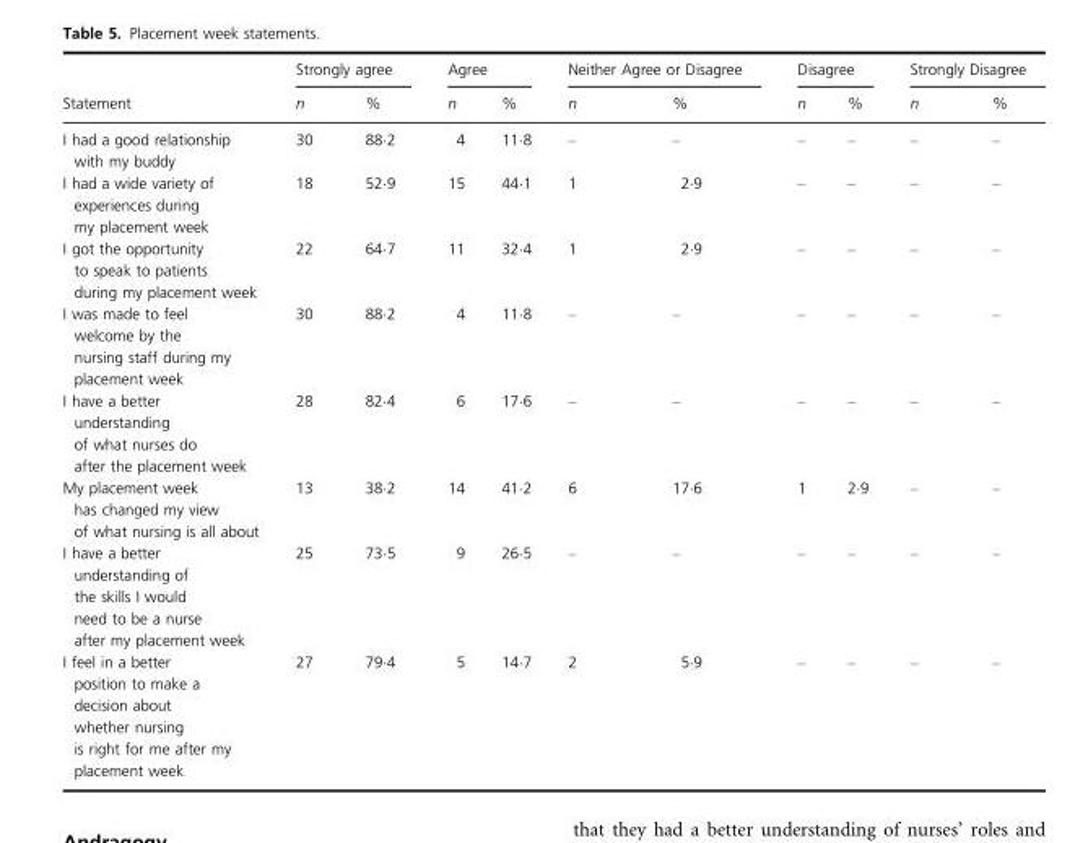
<table><thead><tr><td rowspan="2">Statement</td><td colspan="2">Strongly agree</td><td colspan="2">Agree</td><td colspan="2">Neither Agree or Disagree</td><td colspan="2">Disagree</td><td colspan="2">Strongly Disagree</td></tr><tr><td>n</td><td>%</td><td>n</td><td>%</td><td>n</td><td>%</td><td>n</td><td>%</td><td>n</td><td>%</td></tr></thead><tbody><tr><td>I had a good relationship with my buddy</td><td>30</td><td>88·2</td><td>4</td><td>11·8</td><td>–</td><td>–</td><td>–</td><td>–</td><td>–</td><td>–</td></tr><tr><td>I had a wide variety of experiences during my placement week</td><td>18</td><td>52·9</td><td>15</td><td>44·1</td><td>1</td><td>2·9</td><td>–</td><td>–</td><td>–</td><td>–</td></tr><tr><td>I got the opportunity to speak to patients during my placement week</td><td>22</td><td>64·7</td><td>11</td><td>32·4</td><td>1</td><td>2·9</td><td>–</td><td>–</td><td>–</td><td>–</td></tr><tr><td>I was made to feel welcome by the nursing staff during my placement week</td><td>30</td><td>88·2</td><td>4</td><td>11·8</td><td>–</td><td>–</td><td>–</td><td>–</td><td>–</td><td>–</td></tr><tr><td>I have a better understanding of what nurses do after the placement week</td><td>28</td><td>82·4</td><td>6</td><td>17·6</td><td>–</td><td>–</td><td>–</td><td>–</td><td>–</td><td>–</td></tr><tr><td>My placement week has changed my view of what nursing is all about</td><td>13</td><td>38·2</td><td>14</td><td>41·2</td><td>6</td><td>17·6</td><td>1</td><td>2·9</td><td>–</td><td>–</td></tr><tr><td>I have a better understanding of the skills I would need to be a nurse after my placement week</td><td>25</td><td>73·5</td><td>9</td><td>26·5</td><td>–</td><td>–</td><td>–</td><td>–</td><td>–</td><td>–</td></tr><tr><td>I feel in a better position to make a decision about whether nursing is right for me after my placement week</td><td>27</td><td>79·4</td><td>5</td><td>14·7</td><td>2</td><td>5·9</td><td>–</td><td>–</td><td>–</td><td>–</td></tr></tbody></table>